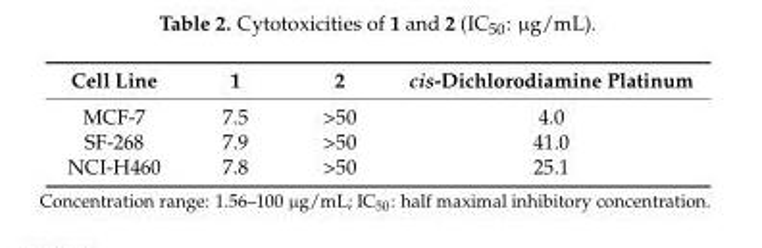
<table><thead><tr><td>Cell Line</td><td>1</td><td>2</td><td>cis-Dichlorodiamine Platinum</td></tr></thead><tbody><tr><td>MCF-7</td><td>7.5</td><td>&gt;50</td><td>4.0</td></tr><tr><td>SF-268</td><td>7.9</td><td>&gt;50</td><td>41.0</td></tr><tr><td>NCI-H460</td><td>7.8</td><td>&gt;50</td><td>25.1</td></tr></tbody></table>